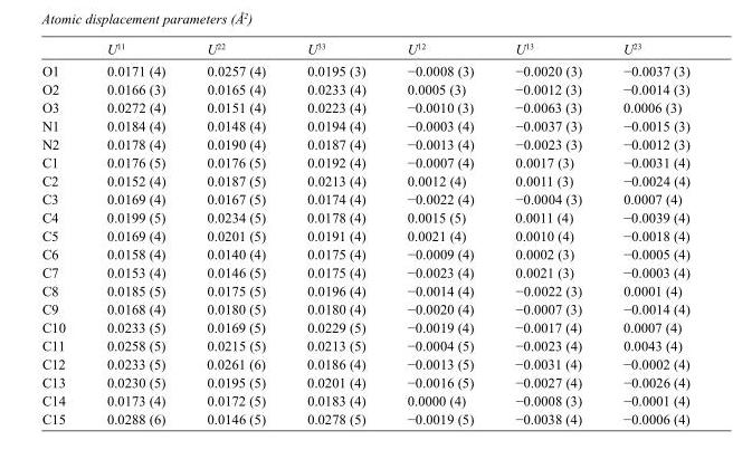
<table><thead><tr><td></td><td>U<sup>11</sup></td><td>U<sup>22</sup></td><td>U<sup>33</sup></td><td>U<sup>12</sup></td><td>U<sup>13</sup></td><td>U<sup>23</sup></td></tr></thead><tbody><tr><td>O1</td><td>0.0171 (4)</td><td>0.0257 (4)</td><td>0.0195 (3)</td><td>−0.0008 (3)</td><td>−0.0020 (3)</td><td>−0.0037 (3)</td></tr><tr><td>O2</td><td>0.0166 (3)</td><td>0.0165 (4)</td><td>0.0233 (4)</td><td>0.0005 (3)</td><td>−0.0012 (3)</td><td>−0.0014 (3)</td></tr><tr><td>O3</td><td>0.0272 (4)</td><td>0.0151 (4)</td><td>0.0223 (4)</td><td>−0.0010 (3)</td><td>−0.0063 (3)</td><td>0.0006 (3)</td></tr><tr><td>N1</td><td>0.0184 (4)</td><td>0.0148 (4)</td><td>0.0194 (4)</td><td>−0.0003 (4)</td><td>−0.0037 (3)</td><td>−0.0015 (3)</td></tr><tr><td>N2</td><td>0.0178 (4)</td><td>0.0190 (4)</td><td>0.0187 (4)</td><td>−0.0013 (4)</td><td>−0.0023 (3)</td><td>−0.0012 (3)</td></tr><tr><td>C1</td><td>0.0176 (5)</td><td>0.0176 (5)</td><td>0.0192 (4)</td><td>−0.0007 (4)</td><td>0.0017 (3)</td><td>−0.0031 (4)</td></tr><tr><td>C2</td><td>0.0152 (4)</td><td>0.0187 (5)</td><td>0.0213 (4)</td><td>0.0012 (4)</td><td>0.0011 (3)</td><td>−0.0024 (4)</td></tr><tr><td>C3</td><td>0.0169 (4)</td><td>0.0167 (5)</td><td>0.0174 (4)</td><td>−0.0022 (4)</td><td>−0.0004 (3)</td><td>0.0007 (4)</td></tr><tr><td>C4</td><td>0.0199 (5)</td><td>0.0234 (5)</td><td>0.0178 (4)</td><td>0.0015 (5)</td><td>0.0011 (4)</td><td>−0.0039 (4)</td></tr><tr><td>C5</td><td>0.0169 (4)</td><td>0.0201 (5)</td><td>0.0191 (4)</td><td>0.0021 (4)</td><td>0.0010 (4)</td><td>−0.0018 (4)</td></tr><tr><td>C6</td><td>0.0158 (4)</td><td>0.0140 (4)</td><td>0.0175 (4)</td><td>−0.0009 (4)</td><td>0.0002 (3)</td><td>−0.0005 (4)</td></tr><tr><td>C7</td><td>0.0153 (4)</td><td>0.0146 (5)</td><td>0.0175 (4)</td><td>−0.0023 (4)</td><td>0.0021 (3)</td><td>−0.0003 (4)</td></tr><tr><td>C8</td><td>0.0185 (5)</td><td>0.0175 (5)</td><td>0.0196 (4)</td><td>−0.0014 (4)</td><td>−0.0022 (3)</td><td>0.0001 (4)</td></tr><tr><td>C9</td><td>0.0168 (4)</td><td>0.0180 (5)</td><td>0.0180 (4)</td><td>−0.0020 (4)</td><td>−0.0007 (3)</td><td>−0.0014 (4)</td></tr><tr><td>C10</td><td>0.0233 (5)</td><td>0.0169 (5)</td><td>0.0229 (5)</td><td>−0.0019 (4)</td><td>−0.0017 (4)</td><td>0.0007 (4)</td></tr><tr><td>C11</td><td>0.0258 (5)</td><td>0.0215 (5)</td><td>0.0213 (5)</td><td>−0.0004 (5)</td><td>−0.0023 (4)</td><td>0.0043 (4)</td></tr><tr><td>C12</td><td>0.0233 (5)</td><td>0.0261 (6)</td><td>0.0186 (4)</td><td>−0.0013 (5)</td><td>−0.0031 (4)</td><td>−0.0002 (4)</td></tr><tr><td>C13</td><td>0.0230 (5)</td><td>0.0195 (5)</td><td>0.0201 (4)</td><td>−0.0016 (5)</td><td>−0.0027 (4)</td><td>−0.0026 (4)</td></tr><tr><td>C14</td><td>0.0173 (4)</td><td>0.0172 (5)</td><td>0.0183 (4)</td><td>0.0000 (4)</td><td>−0.0008 (3)</td><td>−0.0001 (4)</td></tr><tr><td>C15</td><td>0.0288 (6)</td><td>0.0146 (5)</td><td>0.0278 (5)</td><td>−0.0019 (5)</td><td>−0.0038 (4)</td><td>−0.0006 (4)</td></tr></tbody></table>